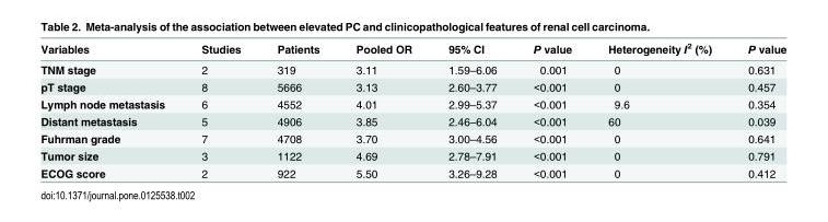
<table><thead><tr><td>Variables</td><td>Studies</td><td>Patients</td><td>Pooled OR</td><td>95% CI</td><td>P value</td><td>Heterogeneity I<sup>2</sup> (%)</td><td>P value</td></tr></thead><tbody><tr><td>TNM stage</td><td>2</td><td>319</td><td>3.11</td><td>1.59–6.06</td><td>0.001</td><td>0</td><td>0.631</td></tr><tr><td>pT stage</td><td>8</td><td>5666</td><td>3.13</td><td>2.60–3.77</td><td>&lt;0.001</td><td>0</td><td>0.457</td></tr><tr><td>Lymph node metastasis</td><td>6</td><td>4552</td><td>4.01</td><td>2.99–5.37</td><td>&lt;0.001</td><td>9.6</td><td>0.354</td></tr><tr><td>Distant metastasis</td><td>5</td><td>4906</td><td>3.85</td><td>2.46–6.04</td><td>&lt;0.001</td><td>60</td><td>0.039</td></tr><tr><td>Fuhrman grade</td><td>7</td><td>4708</td><td>3.70</td><td>3.00–4.56</td><td>&lt;0.001</td><td>0</td><td>0.641</td></tr><tr><td>Tumor size</td><td>3</td><td>1122</td><td>4.69</td><td>2.78–7.91</td><td>&lt;0.001</td><td>0</td><td>0.791</td></tr><tr><td>ECOG score</td><td>2</td><td>922</td><td>5.50</td><td>3.26–9.28</td><td>&lt;0.001</td><td>0</td><td>0.412</td></tr></tbody></table>